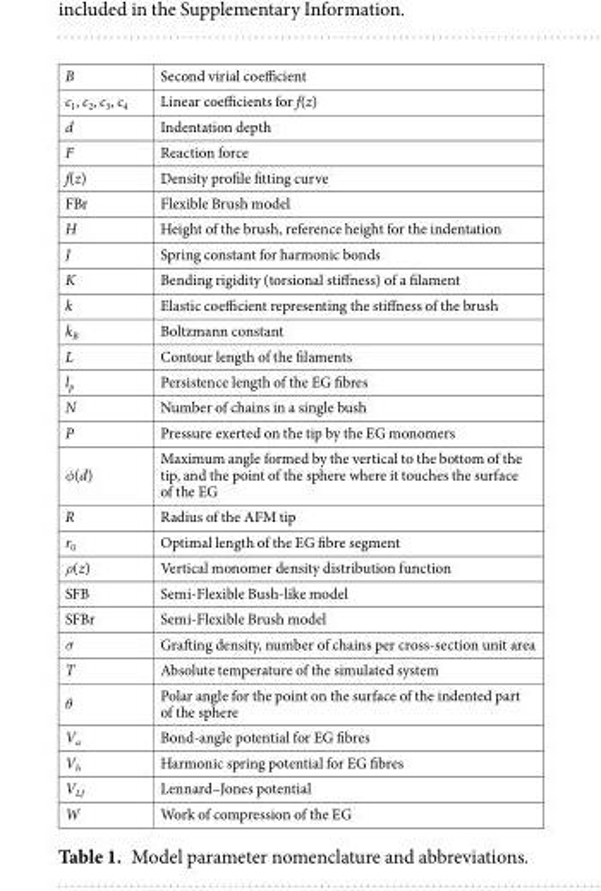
<table><tbody><tr><td>B</td><td>Second virial coefficient</td></tr><tr><td>c<sub>1</sub>, c<sub>2</sub>, c<sub>3</sub>, c<sub>4</sub></td><td>Linear coefficients for f(z)</td></tr><tr><td>d</td><td>Indentation depth</td></tr><tr><td>F</td><td>Reaction force</td></tr><tr><td>f(z)</td><td>Density profile fitting curve</td></tr><tr><td>FBr</td><td>Flexible Brush model</td></tr><tr><td>H</td><td>Height of the brush, reference height for the indentation</td></tr><tr><td>J</td><td>Spring constant for harmonic bonds</td></tr><tr><td>K</td><td>Bending rigidity (torsional stiffness) of a filament</td></tr><tr><td>k</td><td>Elastic coefficient representing the stiffness of the brush</td></tr><tr><td>k<sub>B</sub></td><td>Boltzmann constant</td></tr><tr><td>L</td><td>Contour length of the filaments</td></tr><tr><td>l<sub>p</sub></td><td>Persistence length of the EG fibres</td></tr><tr><td>N</td><td>Number of chains in a single bush</td></tr><tr><td>P</td><td>Pressure exerted on the tip by the EG monomers</td></tr><tr><td>φ(d)</td><td>Maximum angle formed by the vertical to the bottom of the tip, and the point of the sphere where it touches the surface of the EG</td></tr><tr><td>R</td><td>Radius of the AFM tip</td></tr><tr><td>r<sub>0</sub></td><td>Optimal length of the EG fibre segment</td></tr><tr><td>ρ(z)</td><td>Vertical monomer density distribution function</td></tr><tr><td>SFB</td><td>Semi-Flexible Bush-like model</td></tr><tr><td>SFBr</td><td>Semi-Flexible Brush model</td></tr><tr><td>σ</td><td>Grafting density, number of chains per cross-section unit area</td></tr><tr><td>T</td><td>Absolute temperature of the simulated system</td></tr><tr><td>θ</td><td>Polar angle for the point on the surface of the indented part of the sphere</td></tr><tr><td>V<sub>a</sub></td><td>Bond-angle potential for EG fibres</td></tr><tr><td>V<sub>h</sub></td><td>Harmonic spring potential for EG fibres</td></tr><tr><td>V<sub>LJ</sub></td><td>Lennard–Jones potential</td></tr><tr><td>W</td><td>Work of compression of the EG</td></tr></tbody></table>